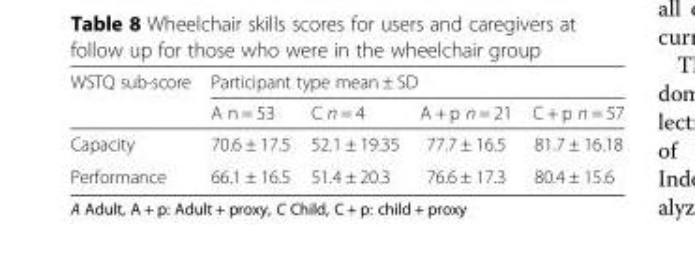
<table><thead><tr><td rowspan="2">WSTQ sub-score</td><td colspan="4">Participant type mean ± SD</td></tr><tr><td>A n = 53</td><td>C n = 4</td><td>A + p n = 21</td><td>C + p n = 57</td></tr></thead><tbody><tr><td>Capacity</td><td>70.6 ± 17.5</td><td>52.1 ± 19.35</td><td>77.7 ± 16.5</td><td>81.7 ± 16.18</td></tr><tr><td>Performance</td><td>66.1 ± 16.5</td><td>51.4 ± 20.3</td><td>76.6 ± 17.3</td><td>80.4 ± 15.6</td></tr></tbody></table>